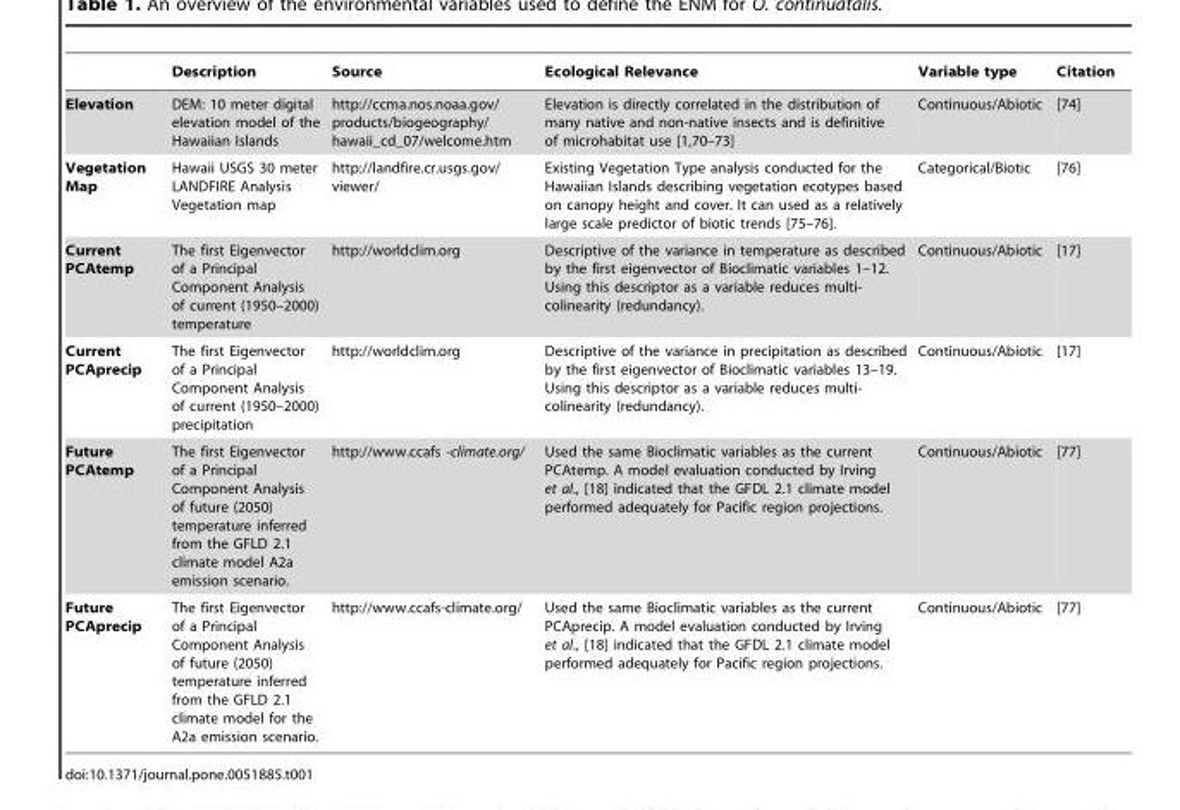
<table><thead><tr><td></td><td>Description</td><td>Source</td><td>Ecological Relevance</td><td>Variable type</td><td>Citation</td></tr></thead><tbody><tr><td>Elevation</td><td>DEM: 10 meter digital elevation model of the Hawaiian Islands</td><td>http://ccma.nos.noaa.gov/ products/biogeography/ hawaii_cd_07/welcome.htm</td><td>Elevation is directly correlated in the distribution of many native and non-native insects and is definitive of microhabitat use [1,70–73]</td><td>Continuous/Abiotic</td><td>[74]</td></tr><tr><td>Vegetation Map</td><td>Hawaii USGS 30 meter LANDFIRE Analysis Vegetation map</td><td>http://landfire.cr.usgs.gov/ viewer/</td><td>Existing Vegetation Type analysis conducted for the Hawaiian Islands describing vegetation ecotypes based on canopy height and cover. It can used as a relatively large scale predictor of biotic trends [75–76].</td><td>Categorical/Biotic</td><td>[76]</td></tr><tr><td>Current PCAtemp</td><td>The first Eigenvector of a Principal Component Analysis of current (1950–2000) temperature</td><td>http://worldclim.org</td><td>Descriptive of the variance in temperature as described by the first eigenvector of Bioclimatic variables 1–12. Using this descriptor as a variable reduces multi- colinearity (redundancy).</td><td>Continuous/Abiotic</td><td>[17]</td></tr><tr><td>Current PCAprecip</td><td>The first Eigenvector of a Principal Component Analysis of current (1950–2000) precipitation</td><td>http://worldclim.org</td><td>Descriptive of the variance in precipitation as described by the first eigenvector of Bioclimatic variables 13–19. Using this descriptor as a variable reduces multi- colinearity (redundancy).</td><td>Continuous/Abiotic</td><td>[17]</td></tr><tr><td>Future PCAtemp</td><td>The first Eigenvector of a Principal Component Analysis of future (2050) temperature inferred from the GFLD 2.1 climate model A2a emission scenario.</td><td>http://www.ccafs -climate.org/</td><td>Used the same Bioclimatic variables as the current PCAtemp. A model evaluation conducted by Irving et al., [18] indicated that the GFDL 2.1 climate model performed adequately for Pacific region projections.</td><td>Continuous/Abiotic</td><td>[77]</td></tr><tr><td>Future PCAprecip</td><td>The first Eigenvector of a Principal Component Analysis of future (2050) temperature inferred from the GFLD 2.1 climate model for the A2a emission scenario.</td><td>http://www.ccafs-climate.org/</td><td>Used the same Bioclimatic variables as the current PCAprecip. A model evaluation conducted by Irving et al., [18] indicated that the GFDL 2.1 climate model performed adequately for Pacific region projections.</td><td>Continuous/Abiotic</td><td>[77]</td></tr></tbody></table>